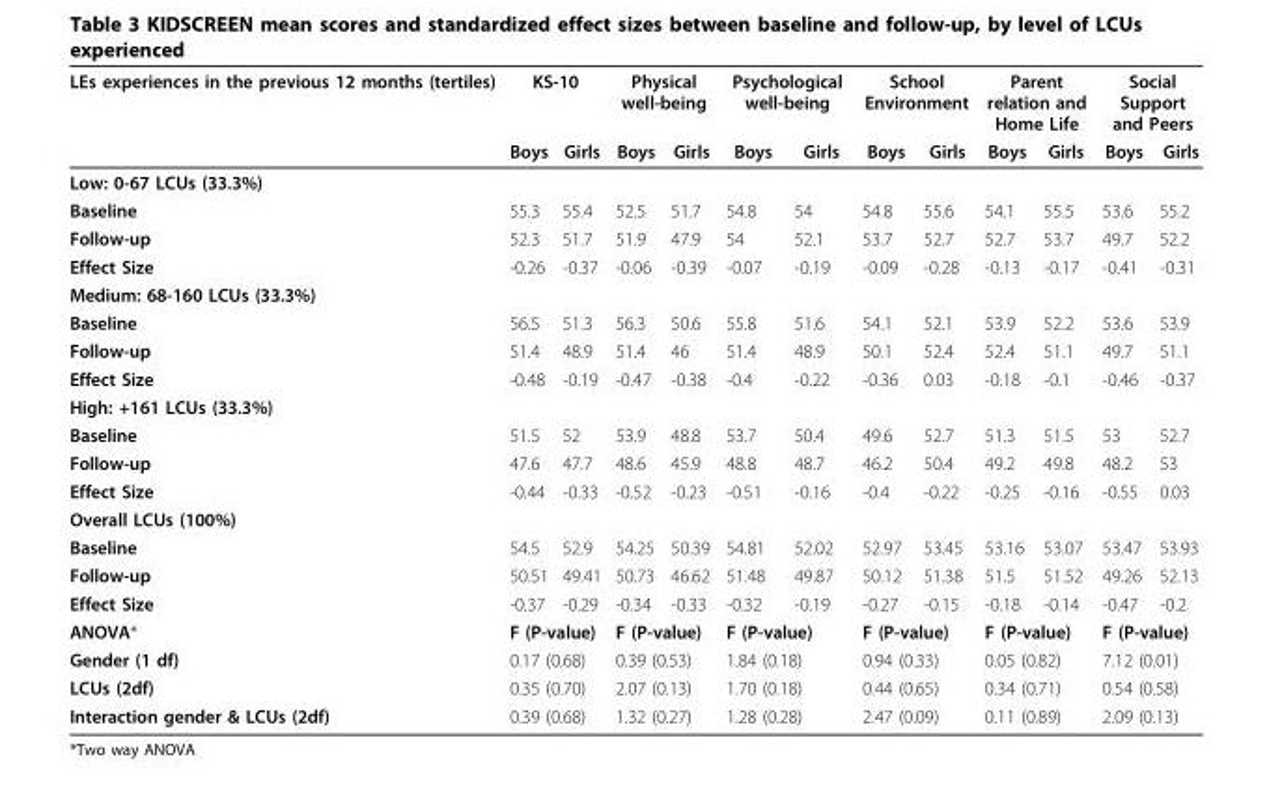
<table><thead><tr><td rowspan="2">LEs experiences in the previous 12 months (tertiles)</td><td colspan="2">KS-10</td><td colspan="2">Physical well-being</td><td colspan="2">Psychological well-being</td><td colspan="2">School Environment</td><td colspan="2">Parent relation and Home Life</td><td colspan="2">Social Support and Peers</td></tr><tr><td>Boys</td><td>Girls</td><td>Boys</td><td>Girls</td><td>Boys</td><td>Girls</td><td>Boys</td><td>Girls</td><td>Boys</td><td>Girls</td><td>Boys</td><td>Girls</td></tr></thead><tbody><tr><td colspan="13">Low: 0-67 LCUs (33.3%)</td></tr><tr><td>Baseline</td><td>55.3</td><td>55.4</td><td>52.5</td><td>51.7</td><td>54.8</td><td>54</td><td>54.8</td><td>55.6</td><td>54.1</td><td>55.5</td><td>53.6</td><td>55.2</td></tr><tr><td>Follow-up</td><td>52.3</td><td>51.7</td><td>51.9</td><td>47.9</td><td>54</td><td>52.1</td><td>53.7</td><td>52.7</td><td>52.7</td><td>53.7</td><td>49.7</td><td>52.2</td></tr><tr><td>Effect Size</td><td>-0.26</td><td>-0.37</td><td>-0.06</td><td>-0.39</td><td>-0.07</td><td>-0.19</td><td>-0.09</td><td>-0.28</td><td>-0.13</td><td>-0.17</td><td>-0.41</td><td>-0.31</td></tr><tr><td colspan="13">Medium: 68-160 LCUs (33.3%)</td></tr><tr><td>Baseline</td><td>56.5</td><td>51.3</td><td>56.3</td><td>50.6</td><td>55.8</td><td>51.6</td><td>54.1</td><td>52.1</td><td>53.9</td><td>52.2</td><td>53.6</td><td>53.9</td></tr><tr><td>Follow-up</td><td>51.4</td><td>48.9</td><td>51.4</td><td>46</td><td>51.4</td><td>48.9</td><td>50.1</td><td>52.4</td><td>52.4</td><td>51.1</td><td>49.7</td><td>51.1</td></tr><tr><td>Effect Size</td><td>-0.48</td><td>-0.19</td><td>-0.47</td><td>-0.38</td><td>-0.4</td><td>-0.22</td><td>-0.36</td><td>0.03</td><td>-0.18</td><td>-0.1</td><td>-0.46</td><td>-0.37</td></tr><tr><td colspan="13">High: +161 LCUs (33.3%)</td></tr><tr><td>Baseline</td><td>51.5</td><td>52</td><td>53.9</td><td>48.8</td><td>53.7</td><td>50.4</td><td>49.6</td><td>52.7</td><td>51.3</td><td>51.5</td><td>53</td><td>52.7</td></tr><tr><td>Follow-up</td><td>47.6</td><td>47.7</td><td>48.6</td><td>45.9</td><td>48.8</td><td>48.7</td><td>46.2</td><td>50.4</td><td>49.2</td><td>49.8</td><td>48.2</td><td>53</td></tr><tr><td>Effect Size</td><td>-0.44</td><td>-0.33</td><td>-0.52</td><td>-0.23</td><td>-0.51</td><td>-0.16</td><td>-0.4</td><td>-0.22</td><td>-0.25</td><td>-0.16</td><td>-0.55</td><td>0.03</td></tr><tr><td colspan="13">Overall LCUs (100%)</td></tr><tr><td>Baseline</td><td>54.5</td><td>52.9</td><td>54.25</td><td>50.39</td><td>54.81</td><td>52.02</td><td>52.97</td><td>53.45</td><td>53.16</td><td>53.07</td><td>53.47</td><td>53.93</td></tr><tr><td>Follow-up</td><td>50.51</td><td>49.41</td><td>50.73</td><td>46.62</td><td>51.48</td><td>49.87</td><td>50.12</td><td>51.38</td><td>51.5</td><td>51.52</td><td>49.26</td><td>52.13</td></tr><tr><td>Effect Size</td><td>-0.37</td><td>-0.29</td><td>-0.34</td><td>-0.33</td><td>-0.32</td><td>-0.19</td><td>-0.27</td><td>-0.15</td><td>-0.18</td><td>-0.14</td><td>-0.47</td><td>-0.2</td></tr><tr><td>ANOVA*</td><td colspan="2">F (P-value)</td><td colspan="2">F (P-value)</td><td colspan="2">F (P-value)</td><td colspan="2">F (P-value)</td><td colspan="2">F (P-value)</td><td colspan="2">F (P-value)</td></tr><tr><td>Gender (1 df)</td><td colspan="2">0.17 (0.68)</td><td colspan="2">0.39 (0.53)</td><td colspan="2">1.84 (0.18)</td><td colspan="2">0.94 (0.33)</td><td colspan="2">0.05 (0.82)</td><td colspan="2">7.12 (0.01)</td></tr><tr><td>LCUs (2df)</td><td colspan="2">0.35 (0.70)</td><td colspan="2">2.07 (0.13)</td><td colspan="2">1.70 (0.18)</td><td colspan="2">0.44 (0.65)</td><td colspan="2">0.34 (0.71)</td><td colspan="2">0.54 (0.58)</td></tr><tr><td>Interaction gender &amp; LCUs (2df)</td><td colspan="2">0.39 (0.68)</td><td colspan="2">1.32 (0.27)</td><td colspan="2">1.28 (0.28)</td><td colspan="2">2.47 (0.09)</td><td colspan="2">0.11 (0.89)</td><td colspan="2">2.09 (0.13)</td></tr></tbody></table>